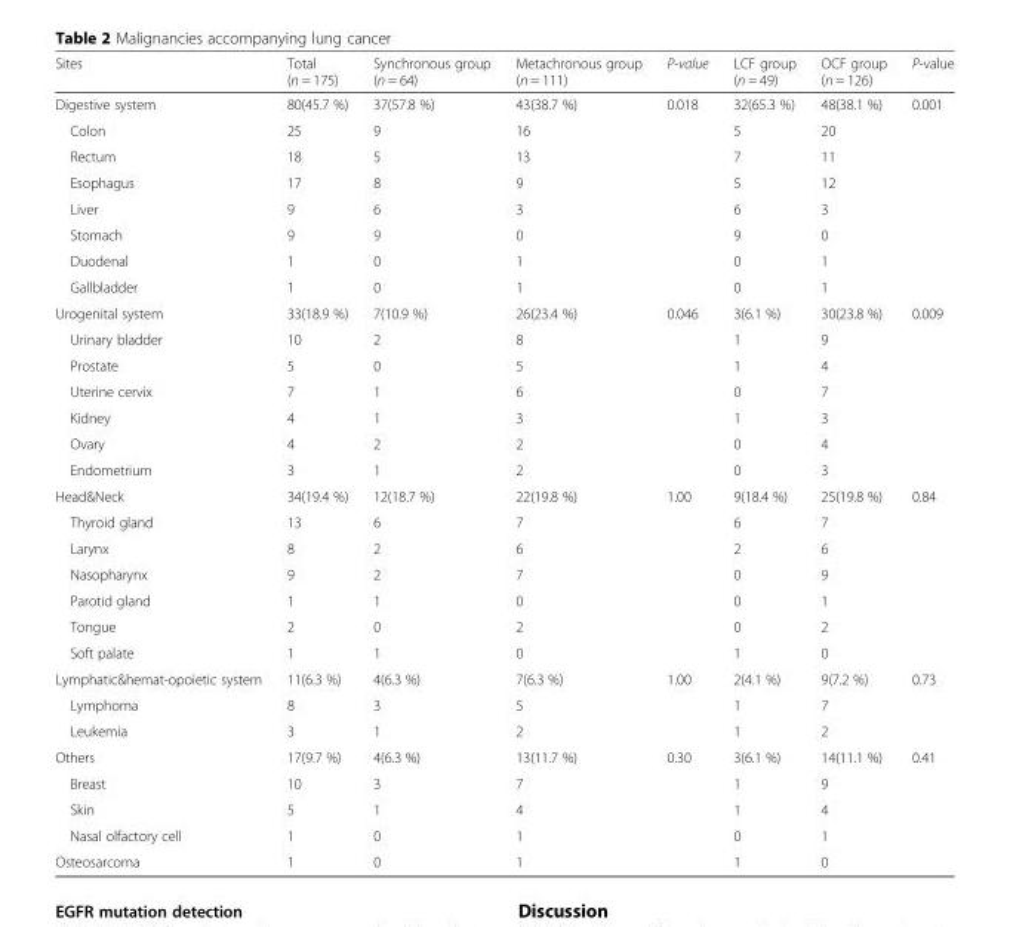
<table><thead><tr><td>Sites</td><td>Total (n = 175)</td><td>Synchronous group (n = 64)</td><td>Metachronous group (n = 111)</td><td>P-value</td><td>LCF group (n = 49)</td><td>OCF group (n = 126)</td><td>P-value</td></tr></thead><tbody><tr><td>Digestive system</td><td>80(45.7 %)</td><td>37(57.8 %)</td><td>43(38.7 %)</td><td>0.018</td><td>32(65.3 %)</td><td>48(38.1 %)</td><td>0.001</td></tr><tr><td>Colon</td><td>25</td><td>9</td><td>16</td><td></td><td>5</td><td>20</td><td></td></tr><tr><td>Rectum</td><td>18</td><td>5</td><td>13</td><td></td><td>7</td><td>11</td><td></td></tr><tr><td>Esophagus</td><td>17</td><td>8</td><td>9</td><td></td><td>5</td><td>12</td><td></td></tr><tr><td>Liver</td><td>9</td><td>6</td><td>3</td><td></td><td>6</td><td>3</td><td></td></tr><tr><td>Stomach</td><td>9</td><td>9</td><td>0</td><td></td><td>9</td><td>0</td><td></td></tr><tr><td>Duodenal</td><td>1</td><td>0</td><td>1</td><td></td><td>0</td><td>1</td><td></td></tr><tr><td>Gallbladder</td><td>1</td><td>0</td><td>1</td><td></td><td>0</td><td>1</td><td></td></tr><tr><td>Urogenital system</td><td>33(18.9 %)</td><td>7(10.9 %)</td><td>26(23.4 %)</td><td>0.046</td><td>3(6.1 %)</td><td>30(23.8 %)</td><td>0.009</td></tr><tr><td>Urinary bladder</td><td>10</td><td>2</td><td>8</td><td></td><td>1</td><td>9</td><td></td></tr><tr><td>Prostate</td><td>5</td><td>0</td><td>5</td><td></td><td>1</td><td>4</td><td></td></tr><tr><td>Uterine cervix</td><td>7</td><td>1</td><td>6</td><td></td><td>0</td><td>7</td><td></td></tr><tr><td>Kidney</td><td>4</td><td>1</td><td>3</td><td></td><td>1</td><td>3</td><td></td></tr><tr><td>Ovary</td><td>4</td><td>2</td><td>2</td><td></td><td>0</td><td>4</td><td></td></tr><tr><td>Endometrium</td><td>3</td><td>1</td><td>2</td><td></td><td>0</td><td>3</td><td></td></tr><tr><td>Head&amp;Neck</td><td>34(19.4 %)</td><td>12(18.7 %)</td><td>22(19.8 %)</td><td>1.00</td><td>9(18.4 %)</td><td>25(19.8 %)</td><td>0.84</td></tr><tr><td>Thyroid gland</td><td>13</td><td>6</td><td>7</td><td></td><td>6</td><td>7</td><td></td></tr><tr><td>Larynx</td><td>8</td><td>2</td><td>6</td><td></td><td>2</td><td>6</td><td></td></tr><tr><td>Nasopharynx</td><td>9</td><td>2</td><td>7</td><td></td><td>0</td><td>9</td><td></td></tr><tr><td>Parotid gland</td><td>1</td><td>1</td><td>0</td><td></td><td>0</td><td>1</td><td></td></tr><tr><td>Tongue</td><td>2</td><td>0</td><td>2</td><td></td><td>0</td><td>2</td><td></td></tr><tr><td>Soft palate</td><td>1</td><td>1</td><td>0</td><td></td><td>1</td><td>0</td><td></td></tr><tr><td>Lymphatic&amp;hemat-opoietic system</td><td>11(6.3 %)</td><td>4(6.3 %)</td><td>7(6.3 %)</td><td>1.00</td><td>2(4.1 %)</td><td>9(7.2 %)</td><td>0.73</td></tr><tr><td>Lymphoma</td><td>8</td><td>3</td><td>5</td><td></td><td>1</td><td>7</td><td></td></tr><tr><td>Leukemia</td><td>3</td><td>1</td><td>2</td><td></td><td>1</td><td>2</td><td></td></tr><tr><td>Others</td><td>17(9.7 %)</td><td>4(6.3 %)</td><td>13(11.7 %)</td><td>0.30</td><td>3(6.1 %)</td><td>14(11.1 %)</td><td>0.41</td></tr><tr><td>Breast</td><td>10</td><td>3</td><td>7</td><td></td><td>1</td><td>9</td><td></td></tr><tr><td>Skin</td><td>5</td><td>1</td><td>4</td><td></td><td>1</td><td>4</td><td></td></tr><tr><td>Nasal olfactory cell</td><td>1</td><td>0</td><td>1</td><td></td><td>0</td><td>1</td><td></td></tr><tr><td>Osteosarcoma</td><td>1</td><td>0</td><td>1</td><td></td><td>1</td><td>0</td><td></td></tr></tbody></table>